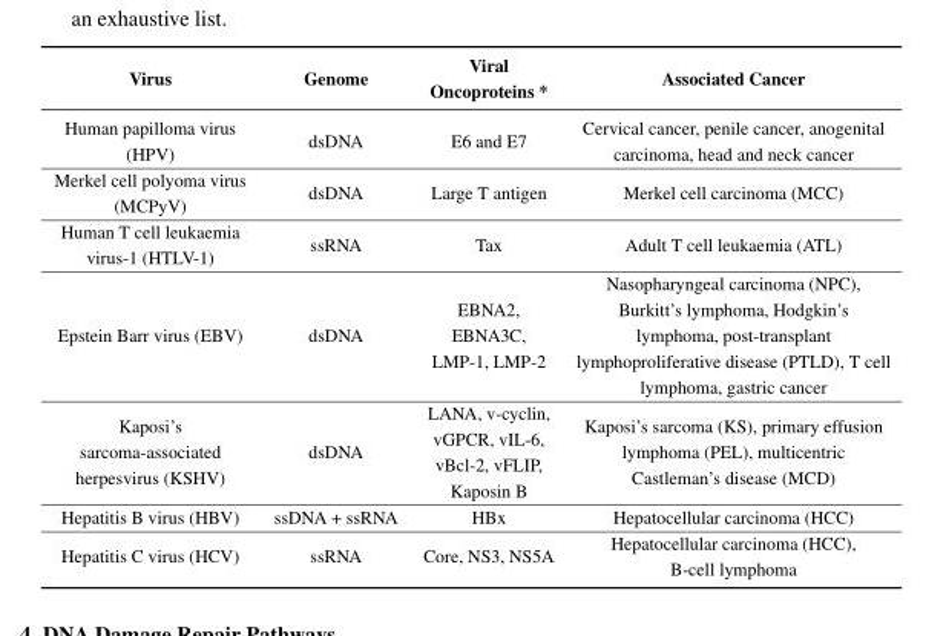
<table><thead><tr><td>Virus</td><td>Genome</td><td>Viral Oncoproteins *</td><td>Associated Cancer</td></tr></thead><tbody><tr><td>Human papilloma virus (HPV)</td><td>dsDNA</td><td>E6 and E7</td><td>Cervical cancer, penile cancer, anogenital carcinoma, head and neck cancer</td></tr><tr><td>Merkel cell polyoma virus (MCPyV)</td><td>dsDNA</td><td>Large T antigen</td><td>Merkel cell carcinoma (MCC)</td></tr><tr><td>Human T cell leukaemia virus-1 (HTLV-1)</td><td>ssRNA</td><td>Tax</td><td>Adult T cell leukaemia (ATL)</td></tr><tr><td>Epstein Barr virus (EBV)</td><td>dsDNA</td><td>EBNA2, EBNA3C, LMP-1, LMP-2</td><td>Nasopharyngeal carcinoma (NPC), Burkitt’s lymphoma, Hodgkin’s lymphoma, post-transplant lymphoproliferative disease (PTLD), T cell lymphoma, gastric cancer</td></tr><tr><td>Kaposi’s sarcoma-associated herpesvirus (KSHV)</td><td>dsDNA</td><td>LANA, v-cyclin, vGPCR, vIL-6, vBcl-2, vFLIP, Kaposin B</td><td>Kaposi’s sarcoma (KS), primary effusion lymphoma (PEL), multicentric Castleman’s disease (MCD)</td></tr><tr><td>Hepatitis B virus (HBV)</td><td>ssDNA + ssRNA</td><td>HBx</td><td>Hepatocellular carcinoma (HCC)</td></tr><tr><td>Hepatitis C virus (HCV)</td><td>ssRNA</td><td>Core, NS3, NS5A</td><td>Hepatocellular carcinoma (HCC), B-cell lymphoma</td></tr></tbody></table>